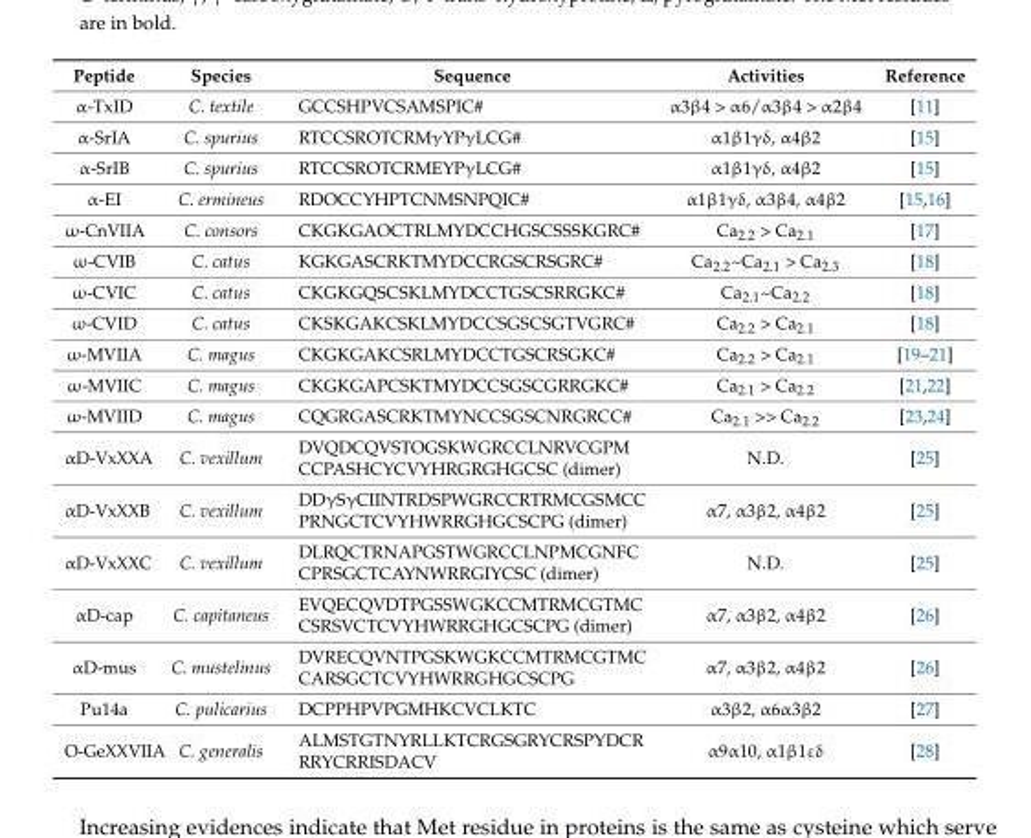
<table><thead><tr><td>Peptide</td><td>Species</td><td>Sequence</td><td>Activities</td><td>Reference</td></tr></thead><tbody><tr><td>α-TxID</td><td>C. textile</td><td>GCCSHPVCSAMSPIC#</td><td>α3β4 &gt; α6/α3β4 &gt; α2β4</td><td>[11]</td></tr><tr><td>α-SrIA</td><td>C. spurius</td><td>RTCCSROTCRMγYPγLCG#</td><td>α1β1γδ, α4β2</td><td>[15]</td></tr><tr><td>α-SrIB</td><td>C. spurius</td><td>RTCCSROTCRMEYPγLCG#</td><td>α1β1γδ, α4β2</td><td>[15]</td></tr><tr><td>α-EI</td><td>C. ermineus</td><td>RDOCCYHPTCNMSNPQIC#</td><td>α1β1γδ, α3β4, α4β2</td><td>[15,16]</td></tr><tr><td>ω-CnVIIA</td><td>C. consors</td><td>CKGKGAOCTRLMYDCCHGSCSSSKGRC#</td><td>Ca<sub>2.2</sub> &gt; Ca<sub>2.1</sub></td><td>[17]</td></tr><tr><td>ω-CVIB</td><td>C. catus</td><td>KGKGASCRKTMYDCCRGSCRSGRC#</td><td>Ca<sub>2.2</sub>~Ca<sub>2.1</sub> &gt; Ca<sub>2.3</sub></td><td>[18]</td></tr><tr><td>ω-CVIC</td><td>C. catus</td><td>CKGKGQSCSKLMYDCCTGSCSRRGKC#</td><td>Ca<sub>2.1</sub>~Ca<sub>2.2</sub></td><td>[18]</td></tr><tr><td>ω-CVID</td><td>C. catus</td><td>CKSKGAKCSKLMYDCCSGSCSGTVGRC#</td><td>Ca<sub>2.2</sub> &gt; Ca<sub>2.1</sub></td><td>[18]</td></tr><tr><td>ω-MVIIA</td><td>C. magus</td><td>CKGKGAKCSRLMYDCCTGSCRSGKC#</td><td>Ca<sub>2.2</sub> &gt; Ca<sub>2.1</sub></td><td>[19–21]</td></tr><tr><td>ω-MVIIC</td><td>C. magus</td><td>CKGKGAPCSKTMYDCCSGSCGRRGKC#</td><td>Ca<sub>2.1</sub> &gt; Ca<sub>2.2</sub></td><td>[21,22]</td></tr><tr><td>ω-MVIID</td><td>C. magus</td><td>CQGRGASCRKTMYNCCSGSCNRGRCC#</td><td>Ca<sub>2.1</sub> &gt;&gt; Ca<sub>2.2</sub></td><td>[23,24]</td></tr><tr><td>αD-VxXXA</td><td>C. vexillum</td><td>DVQDCQVSTOGSKWGRCCLNRVCGPM CCPASHCYCVYHRGRGHGCSC (dimer)</td><td>N.D.</td><td>[25]</td></tr><tr><td>αD-VxXXB</td><td>C. vexillum</td><td>DDγSγCIINTRDSPWGRCCRTRMCGSMCC PRNGCTCVYHWRRGHGCSCPG (dimer)</td><td>α7, α3β2, α4β2</td><td>[25]</td></tr><tr><td>αD-VxXXC</td><td>C. vexillum</td><td>DLRQCTRNAPGSTWGRCCLNPMCGNFC CPRSGCTCAYNWRRGIYCSC (dimer)</td><td>N.D.</td><td>[25]</td></tr><tr><td>αD-cap</td><td>C. capitaneus</td><td>EVQECQVDTPGSSWGKCCMTRMCGTMC CSRSVCTCVYHWRRGHGCSCPG (dimer)</td><td>α7, α3β2, α4β2</td><td>[26]</td></tr><tr><td>αD-mus</td><td>C. mustelinus</td><td>DVRECQVNTPGSKWGKCCMTRMCGTMC CARSGCTCVYHWRRGHGCSCPG</td><td>α7, α3β2, α4β2</td><td>[26]</td></tr><tr><td>Pu14a</td><td>C. pulicarius</td><td>DCPPHPVPGMHKCVCLKTC</td><td>α3β2, α6α3β2</td><td>[27]</td></tr><tr><td>O-GeXXVIIA</td><td>C. generalis</td><td>ALMSTGTNYRLLKTCRGSGRYCRSPYDCR RRYCRRISDACV</td><td>α9α10, α1β1εδ</td><td>[28]</td></tr></tbody></table>